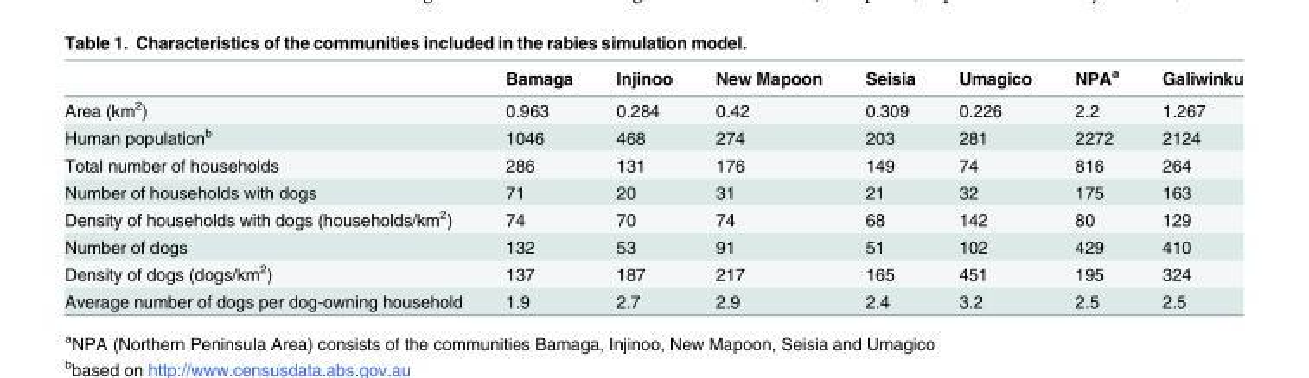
<table><thead><tr><td></td><td>Bamaga</td><td>Injinoo</td><td>New Mapoon</td><td>Seisia</td><td>Umagico</td><td>NPA<sup>a</sup></td><td>Galiwinku</td></tr></thead><tbody><tr><td>Area (km<sup>2</sup>)</td><td>0.963</td><td>0.284</td><td>0.42</td><td>0.309</td><td>0.226</td><td>2.2</td><td>1.267</td></tr><tr><td>Human population<sup>b</sup></td><td>1046</td><td>468</td><td>274</td><td>203</td><td>281</td><td>2272</td><td>2124</td></tr><tr><td>Total number of households</td><td>286</td><td>131</td><td>176</td><td>149</td><td>74</td><td>816</td><td>264</td></tr><tr><td>Number of households with dogs</td><td>71</td><td>20</td><td>31</td><td>21</td><td>32</td><td>175</td><td>163</td></tr><tr><td>Density of households with dogs (households/km<sup>2</sup>)</td><td>74</td><td>70</td><td>74</td><td>68</td><td>142</td><td>80</td><td>129</td></tr><tr><td>Number of dogs</td><td>132</td><td>53</td><td>91</td><td>51</td><td>102</td><td>429</td><td>410</td></tr><tr><td>Density of dogs (dogs/km<sup>2</sup>)</td><td>137</td><td>187</td><td>217</td><td>165</td><td>451</td><td>195</td><td>324</td></tr><tr><td>Average number of dogs per dog-owning household</td><td>1.9</td><td>2.7</td><td>2.9</td><td>2.4</td><td>3.2</td><td>2.5</td><td>2.5</td></tr></tbody></table>